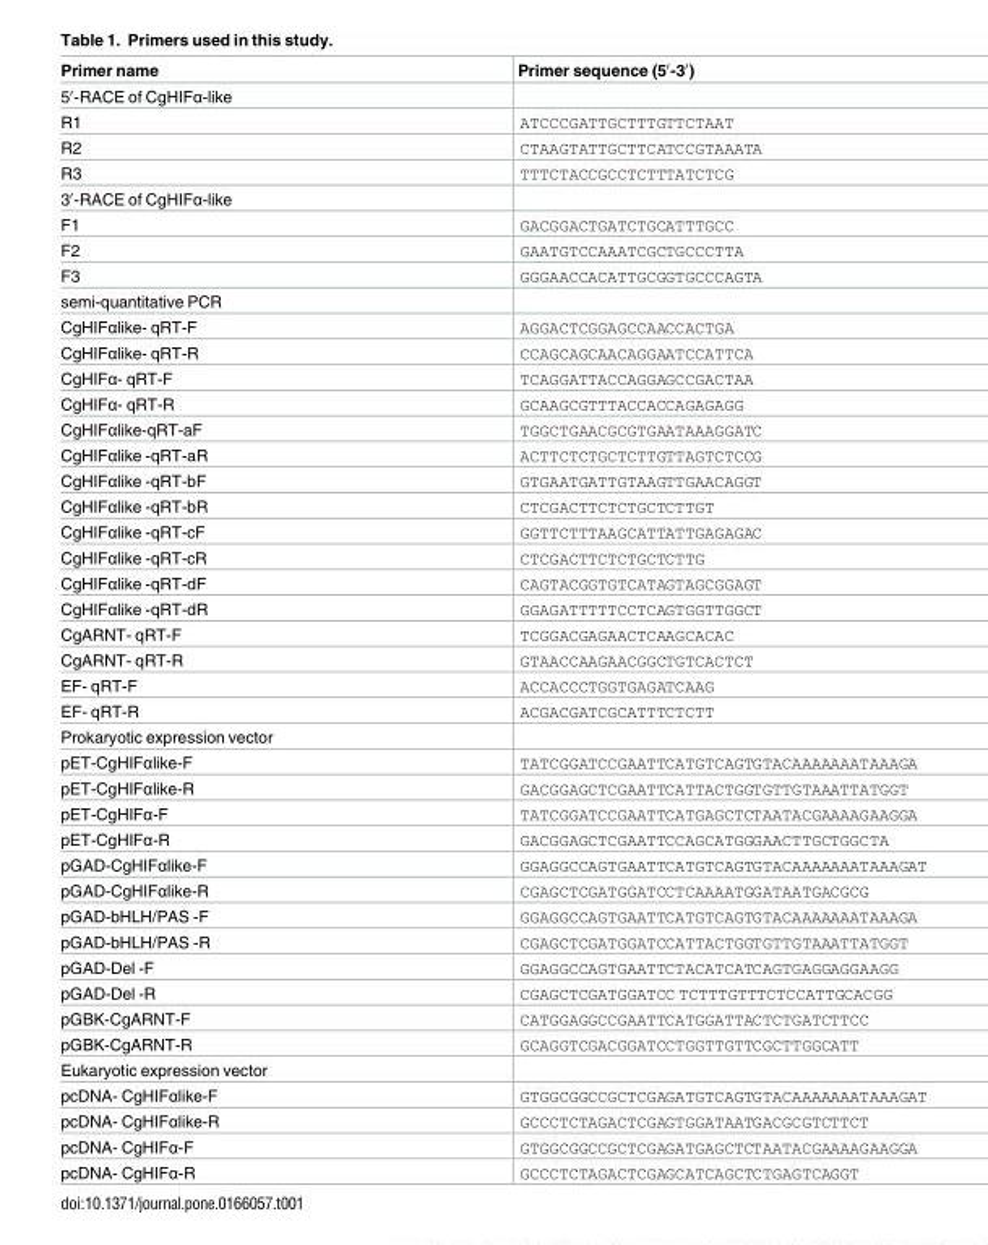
<table><thead><tr><td>Primer name</td><td>Primer sequence (5′-3′)</td></tr></thead><tbody><tr><td colspan="2">5′-RACE of CgHIFα-like</td></tr><tr><td>R1</td><td>ATCCCGATTGCTTTGTTCTAAT</td></tr><tr><td>R2</td><td>CTAAGTATTGCTTCATCCGTAAATA</td></tr><tr><td>R3</td><td>TTTCTACCGCCTCTTTATCTCG</td></tr><tr><td colspan="2">3′-RACE of CgHIFα-like</td></tr><tr><td>F1</td><td>GACGGACTGATCTGCATTTGCC</td></tr><tr><td>F2</td><td>GAATGTCCAAATCGCTGCCCTTA</td></tr><tr><td>F3</td><td>GGGAACCACATTGCGGTGCCCAGTA</td></tr><tr><td colspan="2">semi-quantitative PCR</td></tr><tr><td>CgHIFαlike- qRT-F</td><td>AGGACTCGGAGCCAACCACTGA</td></tr><tr><td>CgHIFαlike- qRT-R</td><td>CCAGCAGCAACAGGAATCCATTCA</td></tr><tr><td>CgHIFα- qRT-F</td><td>TCAGGATTACCAGGAGCCGACTAA</td></tr><tr><td>CgHIFα- qRT-R</td><td>GCAAGCGTTTACCACCAGAGAGG</td></tr><tr><td>CgHIFαlike-qRT-aF</td><td>TGGCTGAACGCGTGAATAAAGGATC</td></tr><tr><td>CgHIFαlike -qRT-aR</td><td>ACTTCTCTGCTCTTGTTAGTCTCCG</td></tr><tr><td>CgHIFαlike -qRT-bF</td><td>GTGAATGATTGTAAGTTGAACAGGT</td></tr><tr><td>CgHIFαlike -qRT-bR</td><td>CTCGACTTCTCTGCTCTTGT</td></tr><tr><td>CgHIFαlike -qRT-cF</td><td>GGTTCTTTAAGCATTATTGAGAGAC</td></tr><tr><td>CgHIFαlike -qRT-cR</td><td>CTCGACTTCTCTGCTCTTG</td></tr><tr><td>CgHIFαlike -qRT-dF</td><td>CAGTACGGTGTCATAGTAGCGGAGT</td></tr><tr><td>CgHIFαlike -qRT-dR</td><td>GGAGATTTTTCCTCAGTGGTTGGCT</td></tr><tr><td>CgARNT- qRT-F</td><td>TCGGACGAGAACTCAAGCACAC</td></tr><tr><td>CgARNT- qRT-R</td><td>GTAACCAAGAACGGCTGTCACTCT</td></tr><tr><td>EF- qRT-F</td><td>ACCACCCTGGTGAGATCAAG</td></tr><tr><td>EF- qRT-R</td><td>ACGACGATCGCATTTCTCTT</td></tr><tr><td colspan="2">Prokaryotic expression vector</td></tr><tr><td>pET-CgHIFαlike-F</td><td>TATCGGATCCGAATTCATGTCAGTGTACAAAAAAATAAAGA</td></tr><tr><td>pET-CgHIFαlike-R</td><td>GACGGAGCTCGAATTCATTACTGGTGTTGTAAATTATGGT</td></tr><tr><td>pET-CgHIFα-F</td><td>TATCGGATCCGAATTCATGAGCTCTAATACGAAAAGAAGGA</td></tr><tr><td>pET-CgHIFα-R</td><td>GACGGAGCTCGAATTCCAGCATGGGAACTTGCTGGCTA</td></tr><tr><td>pGAD-CgHIFαlike-F</td><td>GGAGGCCAGTGAATTCATGTCAGTGTACAAAAAAATAAAGAT</td></tr><tr><td>pGAD-CgHIFαlike-R</td><td>CGAGCTCGATGGATCCTCAAAATGGATAATGACGCG</td></tr><tr><td>pGAD-bHLH/PAS -F</td><td>GGAGGCCAGTGAATTCATGTCAGTGTACAAAAAAATAAAGA</td></tr><tr><td>pGAD-bHLH/PAS -R</td><td>CGAGCTCGATGGATCCATTACTGGTGTTGTAAATTATGGT</td></tr><tr><td>pGAD-Del -F</td><td>GGAGGCCAGTGAATTCTACATCATCAGTGAGGAGGAAGG</td></tr><tr><td>pGAD-Del -R</td><td>CGAGCTCGATGGATCC TCTTTGTTTCTCCATTGCACGG</td></tr><tr><td>pGBK-CgARNT-F</td><td>CATGGAGGCCGAATTCATGGATTACTCTGATCTTCC</td></tr><tr><td>pGBK-CgARNT-R</td><td>GCAGGTCGACGGATCCTGGTTGTTCGCTTGGCATT</td></tr><tr><td colspan="2">Eukaryotic expression vector</td></tr><tr><td>pcDNA- CgHIFαlike-F</td><td>GTGGCGGCCGCTCGAGATGTCAGTGTACAAAAAAATAAAGAT</td></tr><tr><td>pcDNA- CgHIFαlike-R</td><td>GCCCTCTAGACTCGAGTGGATAATGACGCGTCTTCT</td></tr><tr><td>pcDNA- CgHIFα-F</td><td>GTGGCGGCCGCTCGAGATGAGCTCTAATACGAAAAGAAGGA</td></tr><tr><td>pcDNA- CgHIFα-R</td><td>GCCCTCTAGACTCGAGCATCAGCTCTGAGTCAGGT</td></tr></tbody></table>